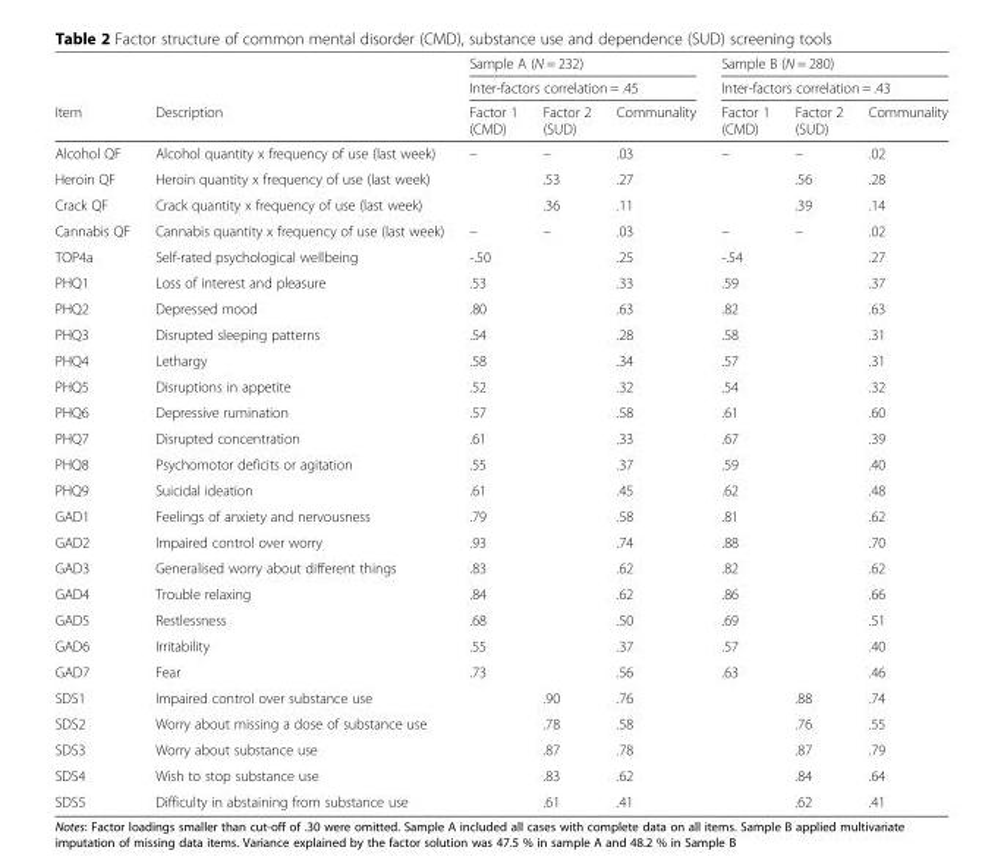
<table><thead><tr><td rowspan="3">Item</td><td rowspan="3">Description</td><td rowspan="2" colspan="3">Sample A (N = 232) Inter-factors correlation = .45</td><td rowspan="2" colspan="3">Sample B (N = 280) Inter-factors correlation = .43</td></tr><tr></tr><tr><td>Factor 1 (CMD)</td><td>Factor 2 (SUD)</td><td>Communality</td><td>Factor 1 (CMD)</td><td>Factor 2 (SUD)</td><td>Communality</td></tr></thead><tbody><tr><td>Alcohol QF</td><td>Alcohol quantity x frequency of use (last week)</td><td>–</td><td>–</td><td>.03</td><td>–</td><td>–</td><td>.02</td></tr><tr><td>Heroin QF</td><td>Heroin quantity x frequency of use (last week)</td><td></td><td>.53</td><td>.27</td><td></td><td>.56</td><td>.28</td></tr><tr><td>Crack QF</td><td>Crack quantity x frequency of use (last week)</td><td></td><td>.36</td><td>.11</td><td></td><td>.39</td><td>.14</td></tr><tr><td>Cannabis QF</td><td>Cannabis quantity x frequency of use (last week)</td><td>–</td><td>–</td><td>.03</td><td>–</td><td>–</td><td>.02</td></tr><tr><td>TOP4a</td><td>Self-rated psychological wellbeing</td><td>-.50</td><td></td><td>.25</td><td>-.54</td><td></td><td>.27</td></tr><tr><td>PHQ1</td><td>Loss of interest and pleasure</td><td>.53</td><td></td><td>.33</td><td>.59</td><td></td><td>.37</td></tr><tr><td>PHQ2</td><td>Depressed mood</td><td>.80</td><td></td><td>.63</td><td>.82</td><td></td><td>.63</td></tr><tr><td>PHQ3</td><td>Disrupted sleeping patterns</td><td>.54</td><td></td><td>.28</td><td>.58</td><td></td><td>.31</td></tr><tr><td>PHQ4</td><td>Lethargy</td><td>.58</td><td></td><td>.34</td><td>.57</td><td></td><td>.31</td></tr><tr><td>PHQ5</td><td>Disruptions in appetite</td><td>.52</td><td></td><td>.32</td><td>.54</td><td></td><td>.32</td></tr><tr><td>PHQ6</td><td>Depressive rumination</td><td>.57</td><td></td><td>.58</td><td>.61</td><td></td><td>.60</td></tr><tr><td>PHQ7</td><td>Disrupted concentration</td><td>.61</td><td></td><td>.33</td><td>.67</td><td></td><td>.39</td></tr><tr><td>PHQ8</td><td>Psychomotor deficits or agitation</td><td>.55</td><td></td><td>.37</td><td>.59</td><td></td><td>.40</td></tr><tr><td>PHQ9</td><td>Suicidal ideation</td><td>.61</td><td></td><td>.45</td><td>.62</td><td></td><td>.48</td></tr><tr><td>GAD1</td><td>Feelings of anxiety and nervousness</td><td>.79</td><td></td><td>.58</td><td>.81</td><td></td><td>.62</td></tr><tr><td>GAD2</td><td>Impaired control over worry</td><td>.93</td><td></td><td>.74</td><td>.88</td><td></td><td>.70</td></tr><tr><td>GAD3</td><td>Generalised worry about different things</td><td>.83</td><td></td><td>.62</td><td>.82</td><td></td><td>.62</td></tr><tr><td>GAD4</td><td>Trouble relaxing</td><td>.84</td><td></td><td>.62</td><td>.86</td><td></td><td>.66</td></tr><tr><td>GAD5</td><td>Restlessness</td><td>.68</td><td></td><td>.50</td><td>.69</td><td></td><td>.51</td></tr><tr><td>GAD6</td><td>Irritability</td><td>.55</td><td></td><td>.37</td><td>.57</td><td></td><td>.40</td></tr><tr><td>GAD7</td><td>Fear</td><td>.73</td><td></td><td>.56</td><td>.63</td><td></td><td>.46</td></tr><tr><td>SDS1</td><td>Impaired control over substance use</td><td></td><td>.90</td><td>.76</td><td></td><td>.88</td><td>.74</td></tr><tr><td>SDS2</td><td>Worry about missing a dose of substance use</td><td></td><td>.78</td><td>.58</td><td></td><td>.76</td><td>.55</td></tr><tr><td>SDS3</td><td>Worry about substance use</td><td></td><td>.87</td><td>.78</td><td></td><td>.87</td><td>.79</td></tr><tr><td>SDS4</td><td>Wish to stop substance use</td><td></td><td>.83</td><td>.62</td><td></td><td>.84</td><td>.64</td></tr><tr><td>SDS5</td><td>Difficulty in abstaining from substance use</td><td></td><td>.61</td><td>.41</td><td></td><td>.62</td><td>.41</td></tr></tbody></table>